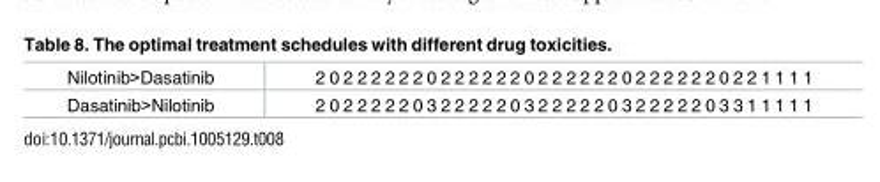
<table><tbody><tr><td>Nilotinib&gt;Dasatinib</td><td>2 0 2 2 2 2 2 2 0 2 2 2 2 2 2 0 2 2 2 2 2 2 0 2 2 2 2 2 2 0 2 2 1 1 1 1</td></tr><tr><td>Dasatinib&gt;Nilotinib</td><td>2 0 2 2 2 2 2 0 3 2 2 2 2 2 0 3 2 2 2 2 2 0 3 2 2 2 2 2 0 3 3 1 1 1 1 1</td></tr></tbody></table>